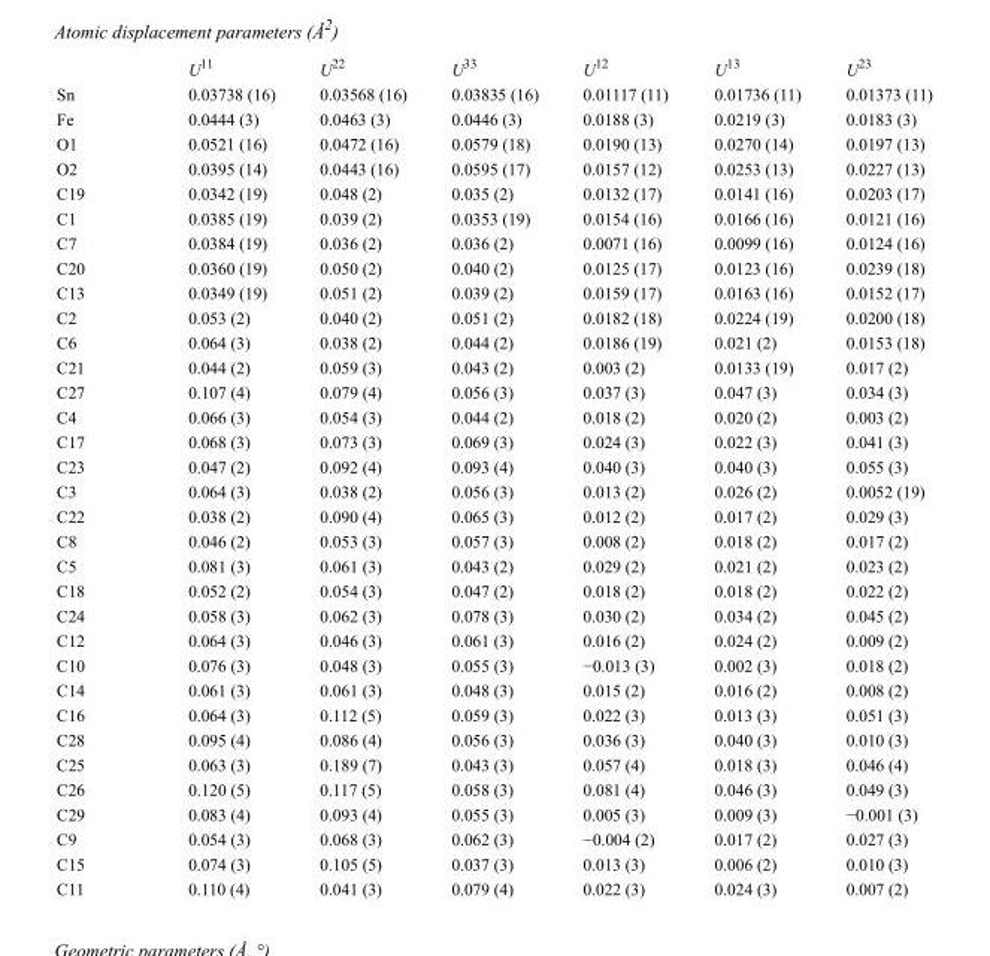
<table><thead><tr><td></td><td>U<sup>11</sup></td><td>U<sup>22</sup></td><td>U<sup>33</sup></td><td>U<sup>12</sup></td><td>U<sup>13</sup></td><td>U<sup>23</sup></td></tr></thead><tbody><tr><td>Sn</td><td>0.03738 (16)</td><td>0.03568 (16)</td><td>0.03835 (16)</td><td>0.01117 (11)</td><td>0.01736 (11)</td><td>0.01373 (11)</td></tr><tr><td>Fe</td><td>0.0444 (3)</td><td>0.0463 (3)</td><td>0.0446 (3)</td><td>0.0188 (3)</td><td>0.0219 (3)</td><td>0.0183 (3)</td></tr><tr><td>O1</td><td>0.0521 (16)</td><td>0.0472 (16)</td><td>0.0579 (18)</td><td>0.0190 (13)</td><td>0.0270 (14)</td><td>0.0197 (13)</td></tr><tr><td>O2</td><td>0.0395 (14)</td><td>0.0443 (16)</td><td>0.0595 (17)</td><td>0.0157 (12)</td><td>0.0253 (13)</td><td>0.0227 (13)</td></tr><tr><td>C19</td><td>0.0342 (19)</td><td>0.048 (2)</td><td>0.035 (2)</td><td>0.0132 (17)</td><td>0.0141 (16)</td><td>0.0203 (17)</td></tr><tr><td>C1</td><td>0.0385 (19)</td><td>0.039 (2)</td><td>0.0353 (19)</td><td>0.0154 (16)</td><td>0.0166 (16)</td><td>0.0121 (16)</td></tr><tr><td>C7</td><td>0.0384 (19)</td><td>0.036 (2)</td><td>0.036 (2)</td><td>0.0071 (16)</td><td>0.0099 (16)</td><td>0.0124 (16)</td></tr><tr><td>C20</td><td>0.0360 (19)</td><td>0.050 (2)</td><td>0.040 (2)</td><td>0.0125 (17)</td><td>0.0123 (16)</td><td>0.0239 (18)</td></tr><tr><td>C13</td><td>0.0349 (19)</td><td>0.051 (2)</td><td>0.039 (2)</td><td>0.0159 (17)</td><td>0.0163 (16)</td><td>0.0152 (17)</td></tr><tr><td>C2</td><td>0.053 (2)</td><td>0.040 (2)</td><td>0.051 (2)</td><td>0.0182 (18)</td><td>0.0224 (19)</td><td>0.0200 (18)</td></tr><tr><td>C6</td><td>0.064 (3)</td><td>0.038 (2)</td><td>0.044 (2)</td><td>0.0186 (19)</td><td>0.021 (2)</td><td>0.0153 (18)</td></tr><tr><td>C21</td><td>0.044 (2)</td><td>0.059 (3)</td><td>0.043 (2)</td><td>0.003 (2)</td><td>0.0133 (19)</td><td>0.017 (2)</td></tr><tr><td>C27</td><td>0.107 (4)</td><td>0.079 (4)</td><td>0.056 (3)</td><td>0.037 (3)</td><td>0.047 (3)</td><td>0.034 (3)</td></tr><tr><td>C4</td><td>0.066 (3)</td><td>0.054 (3)</td><td>0.044 (2)</td><td>0.018 (2)</td><td>0.020 (2)</td><td>0.003 (2)</td></tr><tr><td>C17</td><td>0.068 (3)</td><td>0.073 (3)</td><td>0.069 (3)</td><td>0.024 (3)</td><td>0.022 (3)</td><td>0.041 (3)</td></tr><tr><td>C23</td><td>0.047 (2)</td><td>0.092 (4)</td><td>0.093 (4)</td><td>0.040 (3)</td><td>0.040 (3)</td><td>0.055 (3)</td></tr><tr><td>C3</td><td>0.064 (3)</td><td>0.038 (2)</td><td>0.056 (3)</td><td>0.013 (2)</td><td>0.026 (2)</td><td>0.0052 (19)</td></tr><tr><td>C22</td><td>0.038 (2)</td><td>0.090 (4)</td><td>0.065 (3)</td><td>0.012 (2)</td><td>0.017 (2)</td><td>0.029 (3)</td></tr><tr><td>C8</td><td>0.046 (2)</td><td>0.053 (3)</td><td>0.057 (3)</td><td>0.008 (2)</td><td>0.018 (2)</td><td>0.017 (2)</td></tr><tr><td>C5</td><td>0.081 (3)</td><td>0.061 (3)</td><td>0.043 (2)</td><td>0.029 (2)</td><td>0.021 (2)</td><td>0.023 (2)</td></tr><tr><td>C18</td><td>0.052 (2)</td><td>0.054 (3)</td><td>0.047 (2)</td><td>0.018 (2)</td><td>0.018 (2)</td><td>0.022 (2)</td></tr><tr><td>C24</td><td>0.058 (3)</td><td>0.062 (3)</td><td>0.078 (3)</td><td>0.030 (2)</td><td>0.034 (2)</td><td>0.045 (2)</td></tr><tr><td>C12</td><td>0.064 (3)</td><td>0.046 (3)</td><td>0.061 (3)</td><td>0.016 (2)</td><td>0.024 (2)</td><td>0.009 (2)</td></tr><tr><td>C10</td><td>0.076 (3)</td><td>0.048 (3)</td><td>0.055 (3)</td><td>−0.013 (3)</td><td>0.002 (3)</td><td>0.018 (2)</td></tr><tr><td>C14</td><td>0.061 (3)</td><td>0.061 (3)</td><td>0.048 (3)</td><td>0.015 (2)</td><td>0.016 (2)</td><td>0.008 (2)</td></tr><tr><td>C16</td><td>0.064 (3)</td><td>0.112 (5)</td><td>0.059 (3)</td><td>0.022 (3)</td><td>0.013 (3)</td><td>0.051 (3)</td></tr><tr><td>C28</td><td>0.095 (4)</td><td>0.086 (4)</td><td>0.056 (3)</td><td>0.036 (3)</td><td>0.040 (3)</td><td>0.010 (3)</td></tr><tr><td>C25</td><td>0.063 (3)</td><td>0.189 (7)</td><td>0.043 (3)</td><td>0.057 (4)</td><td>0.018 (3)</td><td>0.046 (4)</td></tr><tr><td>C26</td><td>0.120 (5)</td><td>0.117 (5)</td><td>0.058 (3)</td><td>0.081 (4)</td><td>0.046 (3)</td><td>0.049 (3)</td></tr><tr><td>C29</td><td>0.083 (4)</td><td>0.093 (4)</td><td>0.055 (3)</td><td>0.005 (3)</td><td>0.009 (3)</td><td>−0.001 (3)</td></tr><tr><td>C9</td><td>0.054 (3)</td><td>0.068 (3)</td><td>0.062 (3)</td><td>−0.004 (2)</td><td>0.017 (2)</td><td>0.027 (3)</td></tr><tr><td>C15</td><td>0.074 (3)</td><td>0.105 (5)</td><td>0.037 (3)</td><td>0.013 (3)</td><td>0.006 (2)</td><td>0.010 (3)</td></tr><tr><td>C11</td><td>0.110 (4)</td><td>0.041 (3)</td><td>0.079 (4)</td><td>0.022 (3)</td><td>0.024 (3)</td><td>0.007 (2)</td></tr></tbody></table>